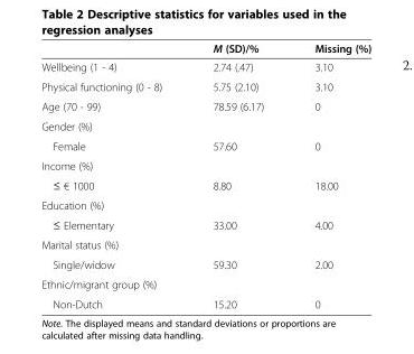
<table><thead><tr><td></td><td>M (SD)/%</td><td>Missing (%)</td></tr></thead><tbody><tr><td>Wellbeing (1 - 4)</td><td>2.74 (.47)</td><td>3.10</td></tr><tr><td>Physical functioning (0 - 8)</td><td>5.75 (2.10)</td><td>3.10</td></tr><tr><td>Age (70 - 99)</td><td>78.59 (6.17)</td><td>0</td></tr><tr><td colspan="3">Gender (%)</td></tr><tr><td>Female</td><td>57.60</td><td>0</td></tr><tr><td colspan="3">Income (%)</td></tr><tr><td>≤ € 1000</td><td>8.80</td><td>18.00</td></tr><tr><td colspan="3">Education (%)</td></tr><tr><td>≤ Elementary</td><td>33.00</td><td>4.00</td></tr><tr><td colspan="3">Marital status (%)</td></tr><tr><td>Single/widow</td><td>59.30</td><td>2.00</td></tr><tr><td colspan="3">Ethnic/migrant group (%)</td></tr><tr><td>Non-Dutch</td><td>15.20</td><td>0</td></tr></tbody></table>